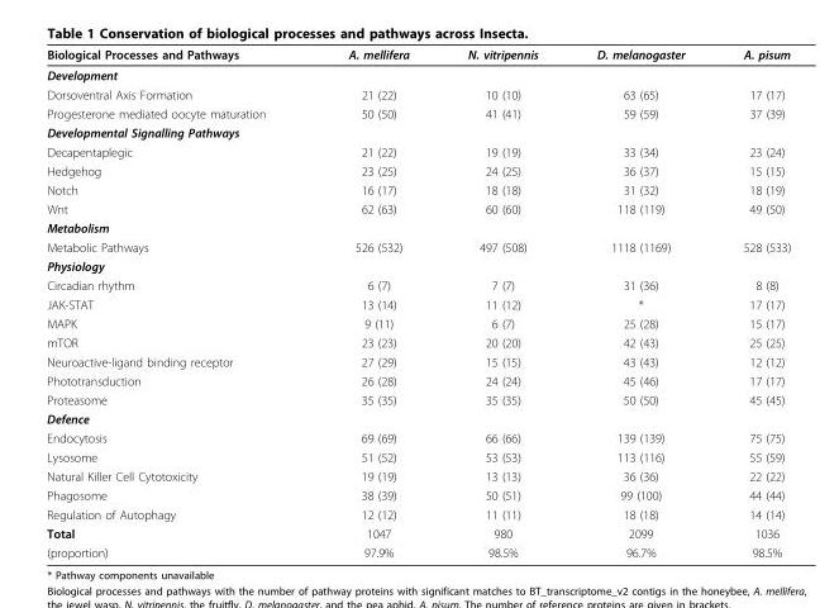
<table><thead><tr><td>Biological Processes and Pathways</td><td>A. mellifera</td><td>N. vitripennis</td><td>D. melanogaster</td><td>A. pisum</td></tr></thead><tbody><tr><td colspan="5">Development</td></tr><tr><td>Dorsoventral Axis Formation</td><td>21 (22)</td><td>10 (10)</td><td>63 (65)</td><td>17 (17)</td></tr><tr><td>Progesterone mediated oocyte maturation</td><td>50 (50)</td><td>41 (41)</td><td>59 (59)</td><td>37 (39)</td></tr><tr><td colspan="5">Developmental Signalling Pathways</td></tr><tr><td>Decapentaplegic</td><td>21 (22)</td><td>19 (19)</td><td>33 (34)</td><td>23 (24)</td></tr><tr><td>Hedgehog</td><td>23 (25)</td><td>24 (25)</td><td>36 (37)</td><td>15 (15)</td></tr><tr><td>Notch</td><td>16 (17)</td><td>18 (18)</td><td>31 (32)</td><td>18 (19)</td></tr><tr><td>Wnt</td><td>62 (63)</td><td>60 (60)</td><td>118 (119)</td><td>49 (50)</td></tr><tr><td colspan="5">Metabolism</td></tr><tr><td>Metabolic Pathways</td><td>526 (532)</td><td>497 (508)</td><td>1118 (1169)</td><td>528 (533)</td></tr><tr><td colspan="5">Physiology</td></tr><tr><td>Circadian rhythm</td><td>6 (7)</td><td>7 (7)</td><td>31 (36)</td><td>8 (8)</td></tr><tr><td>JAK-STAT</td><td>13 (14)</td><td>11 (12)</td><td>*</td><td>17 (17)</td></tr><tr><td>MAPK</td><td>9 (11)</td><td>6 (7)</td><td>25 (28)</td><td>15 (17)</td></tr><tr><td>mTOR</td><td>23 (23)</td><td>20 (20)</td><td>42 (43)</td><td>25 (25)</td></tr><tr><td>Neuroactive-ligand binding receptor</td><td>27 (29)</td><td>15 (15)</td><td>43 (43)</td><td>12 (12)</td></tr><tr><td>Phototransduction</td><td>26 (28)</td><td>24 (24)</td><td>45 (46)</td><td>17 (17)</td></tr><tr><td>Proteasome</td><td>35 (35)</td><td>35 (35)</td><td>50 (50)</td><td>45 (45)</td></tr><tr><td colspan="5">Defence</td></tr><tr><td>Endocytosis</td><td>69 (69)</td><td>66 (66)</td><td>139 (139)</td><td>75 (75)</td></tr><tr><td>Lysosome</td><td>51 (52)</td><td>53 (53)</td><td>113 (116)</td><td>55 (59)</td></tr><tr><td>Natural Killer Cell Cytotoxicity</td><td>19 (19)</td><td>13 (13)</td><td>36 (36)</td><td>22 (22)</td></tr><tr><td>Phagosome</td><td>38 (39)</td><td>50 (51)</td><td>99 (100)</td><td>44 (44)</td></tr><tr><td>Regulation of Autophagy</td><td>12 (12)</td><td>11 (11)</td><td>18 (18)</td><td>14 (14)</td></tr><tr><td>Total</td><td>1047</td><td>980</td><td>2099</td><td>1036</td></tr><tr><td>(proportion)</td><td>97.9%</td><td>98.5%</td><td>96.7%</td><td>98.5%</td></tr></tbody></table>